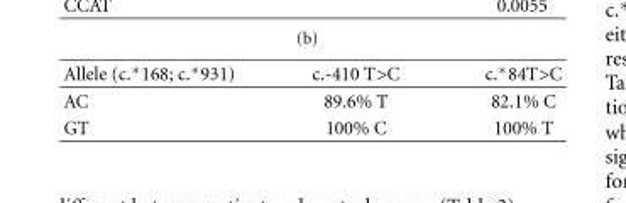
<table><thead><tr><td>Allele (c.∗168; c.∗931)</td><td>c.-410 T&gt;C</td><td>c.∗84T&gt;C</td></tr></thead><tbody><tr><td>AC</td><td>89.6% T</td><td>82.1% C</td></tr><tr><td>GT</td><td>100% C</td><td>100% T</td></tr></tbody></table>